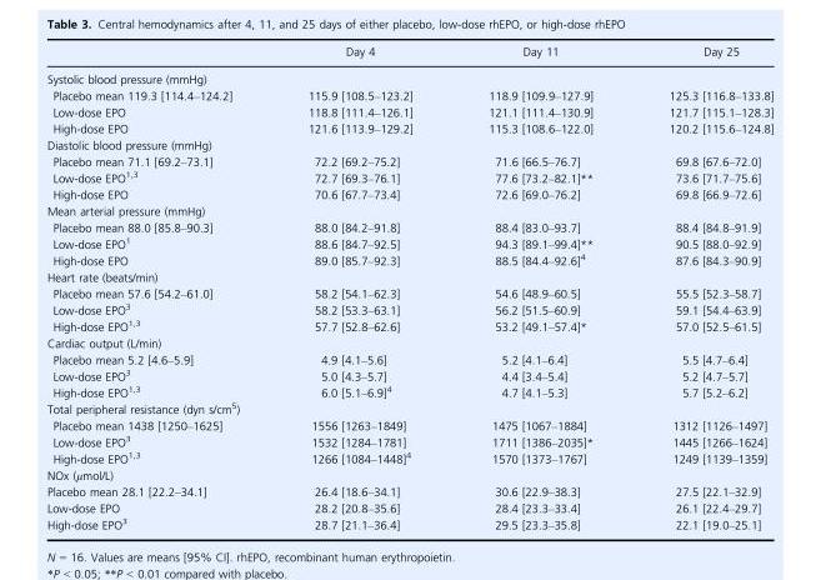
<table><thead><tr><td></td><td>Day 4</td><td>Day 11</td><td>Day 25</td></tr></thead><tbody><tr><td colspan="4">Systolic blood pressure (mmHg)</td></tr><tr><td>Placebo mean 119.3 [114.4–124.2]</td><td>115.9 [108.5–123.2]</td><td>118.9 [109.9–127.9]</td><td>125.3 [116.8–133.8]</td></tr><tr><td>Low-dose EPO</td><td>118.8 [111.4–126.1]</td><td>121.1 [111.4–130.9]</td><td>121.7 [115.1–128.3]</td></tr><tr><td>High-dose EPO</td><td>121.6 [113.9–129.2]</td><td>115.3 [108.6–122.0]</td><td>120.2 [115.6–124.8]</td></tr><tr><td colspan="4">Diastolic blood pressure (mmHg)</td></tr><tr><td>Placebo mean 71.1 [69.2–73.1]</td><td>72.2 [69.2–75.2]</td><td>71.6 [66.5–76.7]</td><td>69.8 [67.6–72.0]</td></tr><tr><td>Low-dose EPO<sup>1,</sup>3</td><td>72.7 [69.3–76.1]</td><td>77.6 [73.2–82.1]**</td><td>73.6 [71.7–75.6]</td></tr><tr><td>High-dose EPO</td><td>70.6 [67.7–73.4]</td><td>72.6 [69.0–76.2]</td><td>69.8 [66.9–72.6]</td></tr><tr><td colspan="4">Mean arterial pressure (mmHg)</td></tr><tr><td>Placebo mean 88.0 [85.8–90.3]</td><td>88.0 [84.2–91.8]</td><td>88.4 [83.0–93.7]</td><td>88.4 [84.8–91.9]</td></tr><tr><td>Low-dose EPO<sup>1</sup></td><td>88.6 [84.7–92.5]</td><td>94.3 [89.1–99.4]**</td><td>90.5 [88.0–92.9]</td></tr><tr><td>High-dose EPO</td><td>89.0 [85.7–92.3]</td><td>88.5 [84.4–92.6]<sup>4</sup></td><td>87.6 [84.3–90.9]</td></tr><tr><td colspan="4">Heart rate (beats/min)</td></tr><tr><td>Placebo mean 57.6 [54.2–61.0]</td><td>58.2 [54.1–62.3]</td><td>54.6 [48.9–60.5]</td><td>55.5 [52.3–58.7]</td></tr><tr><td>Low-dose EPO<sup>3</sup></td><td>58.2 [53.3–63.1]</td><td>56.2 [51.5–60.9]</td><td>59.1 [54.4–63.9]</td></tr><tr><td>High-dose EPO<sup>1,</sup>3</td><td>57.7 [52.8–62.6]</td><td>53.2 [49.1–57.4]*</td><td>57.0 [52.5–61.5]</td></tr><tr><td colspan="4">Cardiac output (L/min)</td></tr><tr><td>Placebo mean 5.2 [4.6–5.9]</td><td>4.9 [4.1–5.6]</td><td>5.2 [4.1–6.4]</td><td>5.5 [4.7–6.4]</td></tr><tr><td>Low-dose EPO<sup>3</sup></td><td>5.0 [4.3–5.7]</td><td>4.4 [3.4–5.4]</td><td>5.2 [4.7–5.7]</td></tr><tr><td>High-dose EPO<sup>1,</sup>3</td><td>6.0 [5.1–6.9]<sup>4</sup></td><td>4.7 [4.1–5.3]</td><td>5.7 [5.2–6.2]</td></tr><tr><td colspan="4">Total peripheral resistance (dyn s/cm<sup>5</sup>)</td></tr><tr><td>Placebo mean 1438 [1250–1625]</td><td>1556 [1263–1849]</td><td>1475 [1067–1884]</td><td>1312 [1126–1497]</td></tr><tr><td>Low-dose EPO<sup>3</sup></td><td>1532 [1284–1781]</td><td>1711 [1386–2035]*</td><td>1445 [1266–1624]</td></tr><tr><td>High-dose EPO<sup>1,</sup>3</td><td>1266 [1084–1448]<sup>4</sup></td><td>1570 [1373–1767]</td><td>1249 [1139–1359]</td></tr><tr><td colspan="4">NOx (μmol/L)</td></tr><tr><td>Placebo mean 28.1 [22.2–34.1]</td><td>26.4 [18.6–34.1]</td><td>30.6 [22.9–38.3]</td><td>27.5 [22.1–32.9]</td></tr><tr><td>Low-dose EPO</td><td>28.2 [20.8–35.6]</td><td>28.4 [23.3–33.4]</td><td>26.1 [22.4–29.7]</td></tr><tr><td>High-dose EPO<sup>3</sup></td><td>28.7 [21.1–36.4]</td><td>29.5 [23.3–35.8]</td><td>22.1 [19.0–25.1]</td></tr></tbody></table>